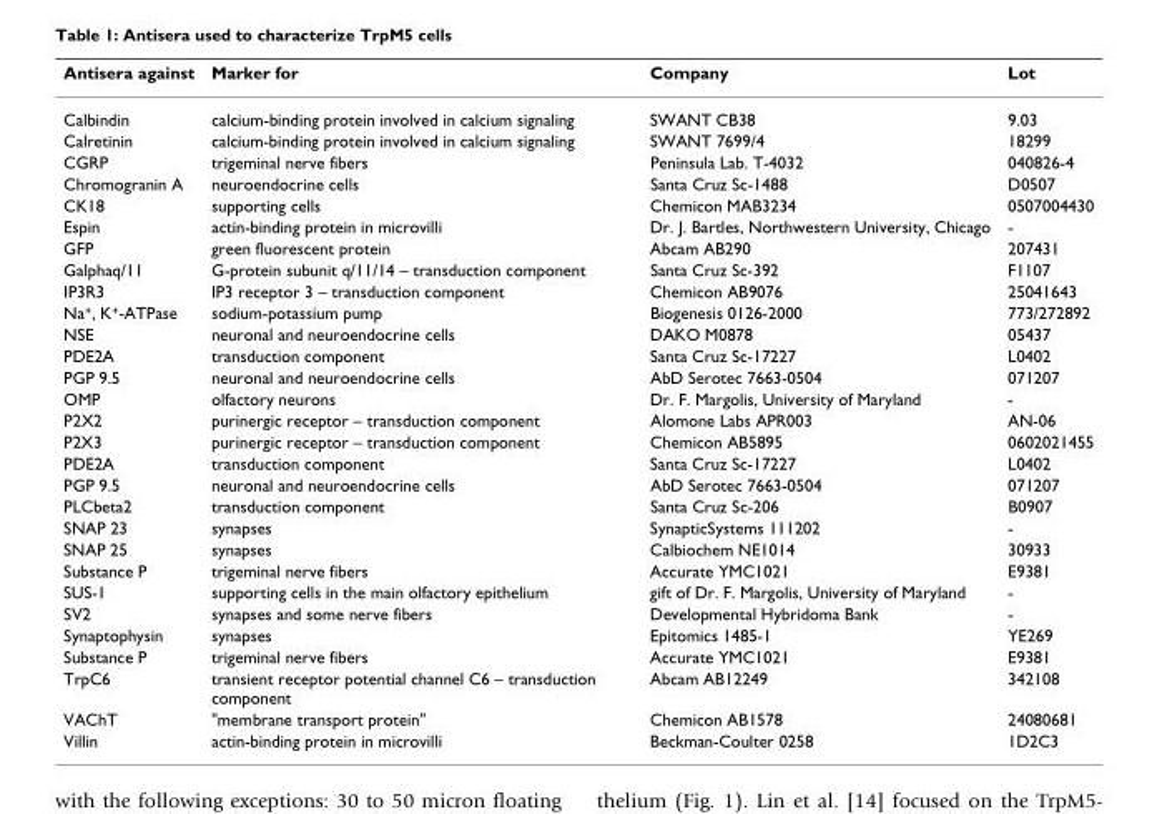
<table><thead><tr><td>Antisera against</td><td>Marker for</td><td>Company</td><td>Lot</td></tr></thead><tbody><tr><td>Calbindin</td><td>calcium-binding protein involved in calcium signaling</td><td>SWANT CB38</td><td>9.03</td></tr><tr><td>Calretinin</td><td>calcium-binding protein involved in calcium signaling</td><td>SWANT 7699/4</td><td>18299</td></tr><tr><td>CGRP</td><td>trigeminal nerve fibers</td><td>Peninsula Lab. T-4032</td><td>040826-4</td></tr><tr><td>Chromogranin A</td><td>neuroendocrine cells</td><td>Santa Cruz Sc-1488</td><td>D0507</td></tr><tr><td>CK18</td><td>supporting cells</td><td>Chemicon MAB3234</td><td>0507004430</td></tr><tr><td>Espin</td><td>actin-binding protein in microvilli</td><td>Dr. J. Bartles, Northwestern University, Chicago</td><td>-</td></tr><tr><td>GFP</td><td>green fluorescent protein</td><td>Abcam AB290</td><td>207431</td></tr><tr><td>Galphaq/11</td><td>G-protein subunit q/11/14 – transduction component</td><td>Santa Cruz Sc-392</td><td>F1107</td></tr><tr><td>IP3R3</td><td>IP3 receptor 3 – transduction component</td><td>Chemicon AB9076</td><td>25041643</td></tr><tr><td>Na<sup>+</sup>, K<sup>+</sup>-ATPase</td><td>sodium-potassium pump</td><td>Biogenesis 0126-2000</td><td>773/272892</td></tr><tr><td>NSE</td><td>neuronal and neuroendocrine cells</td><td>DAKO M0878</td><td>05437</td></tr><tr><td>PDE2A</td><td>transduction component</td><td>Santa Cruz Sc-17227</td><td>L0402</td></tr><tr><td>PGP 9.5</td><td>neuronal and neuroendocrine cells</td><td>AbD Serotec 7663-0504</td><td>071207</td></tr><tr><td>OMP</td><td>olfactory neurons</td><td>Dr. F. Margolis, University of Maryland</td><td>-</td></tr><tr><td>P2X2</td><td>purinergic receptor – transduction component</td><td>Alomone Labs APR003</td><td>AN-06</td></tr><tr><td>P2X3</td><td>purinergic receptor – transduction component</td><td>Chemicon AB5895</td><td>0602021455</td></tr><tr><td>PDE2A</td><td>transduction component</td><td>Santa Cruz Sc-17227</td><td>L0402</td></tr><tr><td>PGP 9.5</td><td>neuronal and neuroendocrine cells</td><td>AbD Serotec 7663-0504</td><td>071207</td></tr><tr><td>PLCbeta2</td><td>transduction component</td><td>Santa Cruz Sc-206</td><td>B0907</td></tr><tr><td>SNAP 23</td><td>synapses</td><td>SynapticSystems 111202</td><td>-</td></tr><tr><td>SNAP 25</td><td>synapses</td><td>Calbiochem NE1014</td><td>30933</td></tr><tr><td>Substance P</td><td>trigeminal nerve fibers</td><td>Accurate YMC1021</td><td>E9381</td></tr><tr><td>SUS-1</td><td>supporting cells in the main olfactory epithelium</td><td>gift of Dr. F. Margolis, University of Maryland</td><td>-</td></tr><tr><td>SV2</td><td>synapses and some nerve fibers</td><td>Developmental Hybridoma Bank</td><td>-</td></tr><tr><td>Synaptophysin</td><td>synapses</td><td>Epitomics 1485-1</td><td>YE269</td></tr><tr><td>Substance P</td><td>trigeminal nerve fibers</td><td>Accurate YMC1021</td><td>E9381</td></tr><tr><td>TrpC6</td><td>transient receptor potential channel C6 – transduction component</td><td>Abcam AB12249</td><td>342108</td></tr><tr><td>VAChT</td><td>&quot;membrane transport protein&quot;</td><td>Chemicon AB1578</td><td>24080681</td></tr><tr><td>Villin</td><td>actin-binding protein in microvilli</td><td>Beckman-Coulter 0258</td><td>1D2C3</td></tr></tbody></table>